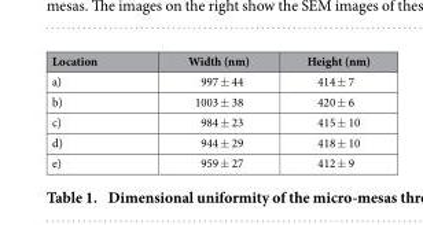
<table><thead><tr><td>Location</td><td>Width (nm)</td><td>Height (nm)</td></tr></thead><tbody><tr><td>a)</td><td>997 ± 44</td><td>414 ± 7</td></tr><tr><td>b)</td><td>1003 ± 38</td><td>420 ± 6</td></tr><tr><td>c)</td><td>984 ± 23</td><td>415 ± 10</td></tr><tr><td>d)</td><td>944 ± 29</td><td>418 ± 10</td></tr><tr><td>e)</td><td>959 ± 27</td><td>412 ± 9</td></tr></tbody></table>